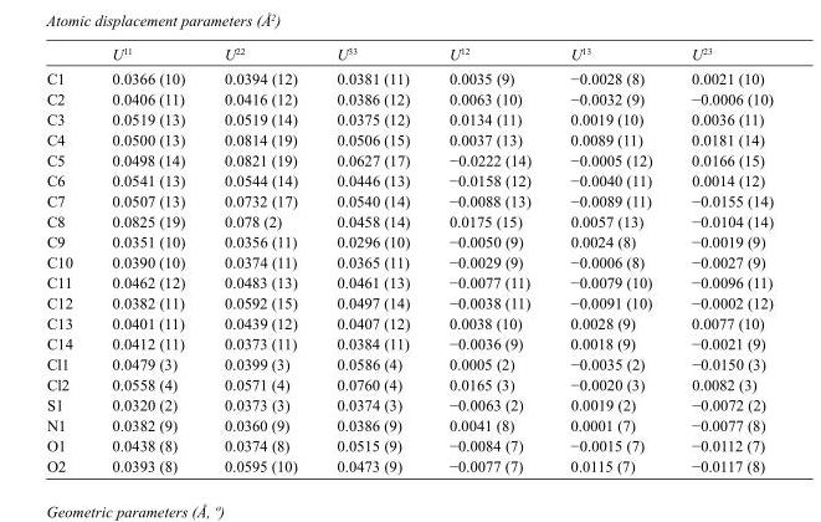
<table><thead><tr><td></td><td>U<sup>11</sup></td><td>U<sup>22</sup></td><td>U<sup>33</sup></td><td>U<sup>12</sup></td><td>U<sup>13</sup></td><td>U<sup>23</sup></td></tr></thead><tbody><tr><td>C1</td><td>0.0366 (10)</td><td>0.0394 (12)</td><td>0.0381 (11)</td><td>0.0035 (9)</td><td>−0.0028 (8)</td><td>0.0021 (10)</td></tr><tr><td>C2</td><td>0.0406 (11)</td><td>0.0416 (12)</td><td>0.0386 (12)</td><td>0.0063 (10)</td><td>−0.0032 (9)</td><td>−0.0006 (10)</td></tr><tr><td>C3</td><td>0.0519 (13)</td><td>0.0519 (14)</td><td>0.0375 (12)</td><td>0.0134 (11)</td><td>0.0019 (10)</td><td>0.0036 (11)</td></tr><tr><td>C4</td><td>0.0500 (13)</td><td>0.0814 (19)</td><td>0.0506 (15)</td><td>0.0037 (13)</td><td>0.0089 (11)</td><td>0.0181 (14)</td></tr><tr><td>C5</td><td>0.0498 (14)</td><td>0.0821 (19)</td><td>0.0627 (17)</td><td>−0.0222 (14)</td><td>−0.0005 (12)</td><td>0.0166 (15)</td></tr><tr><td>C6</td><td>0.0541 (13)</td><td>0.0544 (14)</td><td>0.0446 (13)</td><td>−0.0158 (12)</td><td>−0.0040 (11)</td><td>0.0014 (12)</td></tr><tr><td>C7</td><td>0.0507 (13)</td><td>0.0732 (17)</td><td>0.0540 (14)</td><td>−0.0088 (13)</td><td>−0.0089 (11)</td><td>−0.0155 (14)</td></tr><tr><td>C8</td><td>0.0825 (19)</td><td>0.078 (2)</td><td>0.0458 (14)</td><td>0.0175 (15)</td><td>0.0057 (13)</td><td>−0.0104 (14)</td></tr><tr><td>C9</td><td>0.0351 (10)</td><td>0.0356 (11)</td><td>0.0296 (10)</td><td>−0.0050 (9)</td><td>0.0024 (8)</td><td>−0.0019 (9)</td></tr><tr><td>C10</td><td>0.0390 (10)</td><td>0.0374 (11)</td><td>0.0365 (11)</td><td>−0.0029 (9)</td><td>−0.0006 (8)</td><td>−0.0027 (9)</td></tr><tr><td>C11</td><td>0.0462 (12)</td><td>0.0483 (13)</td><td>0.0461 (13)</td><td>−0.0077 (11)</td><td>−0.0079 (10)</td><td>−0.0096 (11)</td></tr><tr><td>C12</td><td>0.0382 (11)</td><td>0.0592 (15)</td><td>0.0497 (14)</td><td>−0.0038 (11)</td><td>−0.0091 (10)</td><td>−0.0002 (12)</td></tr><tr><td>C13</td><td>0.0401 (11)</td><td>0.0439 (12)</td><td>0.0407 (12)</td><td>0.0038 (10)</td><td>0.0028 (9)</td><td>0.0077 (10)</td></tr><tr><td>C14</td><td>0.0412 (11)</td><td>0.0373 (11)</td><td>0.0384 (11)</td><td>−0.0036 (9)</td><td>0.0018 (9)</td><td>−0.0021 (9)</td></tr><tr><td>Cl1</td><td>0.0479 (3)</td><td>0.0399 (3)</td><td>0.0586 (4)</td><td>0.0005 (2)</td><td>−0.0035 (2)</td><td>−0.0150 (3)</td></tr><tr><td>Cl2</td><td>0.0558 (4)</td><td>0.0571 (4)</td><td>0.0760 (4)</td><td>0.0165 (3)</td><td>−0.0020 (3)</td><td>0.0082 (3)</td></tr><tr><td>S1</td><td>0.0320 (2)</td><td>0.0373 (3)</td><td>0.0374 (3)</td><td>−0.0063 (2)</td><td>0.0019 (2)</td><td>−0.0072 (2)</td></tr><tr><td>N1</td><td>0.0382 (9)</td><td>0.0360 (9)</td><td>0.0386 (9)</td><td>0.0041 (8)</td><td>0.0001 (7)</td><td>−0.0077 (8)</td></tr><tr><td>O1</td><td>0.0438 (8)</td><td>0.0374 (8)</td><td>0.0515 (9)</td><td>−0.0084 (7)</td><td>−0.0015 (7)</td><td>−0.0112 (7)</td></tr><tr><td>O2</td><td>0.0393 (8)</td><td>0.0595 (10)</td><td>0.0473 (9)</td><td>−0.0077 (7)</td><td>0.0115 (7)</td><td>−0.0117 (8)</td></tr></tbody></table>